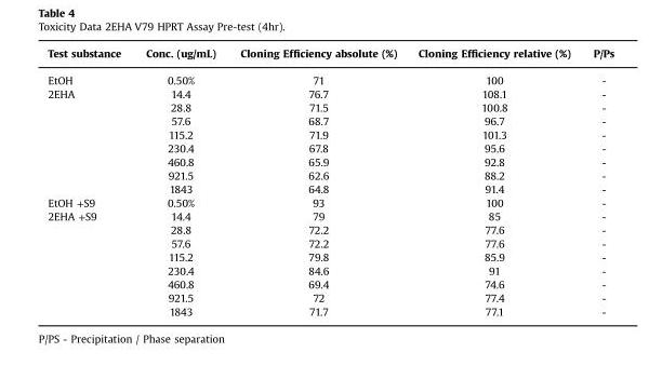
<table><thead><tr><td>Test substance</td><td>Conc. (ug/mL)</td><td>Cloning Efficiency absolute (%)</td><td>Cloning Efficiency relative (%)</td><td>P/Ps</td></tr></thead><tbody><tr><td>EtOH</td><td>0.50%</td><td>71</td><td>100</td><td>-</td></tr><tr><td rowspan="8">2EHA</td><td>14.4</td><td>76.7</td><td>108.1</td><td>-</td></tr><tr><td>28.8</td><td>71.5</td><td>100.8</td><td>-</td></tr><tr><td>57.6</td><td>68.7</td><td>96.7</td><td>-</td></tr><tr><td>115.2</td><td>71.9</td><td>101.3</td><td>-</td></tr><tr><td>230.4</td><td>67.8</td><td>95.6</td><td>-</td></tr><tr><td>460.8</td><td>65.9</td><td>92.8</td><td>-</td></tr><tr><td>921.5</td><td>62.6</td><td>88.2</td><td>-</td></tr><tr><td>1843</td><td>64.8</td><td>91.4</td><td>-</td></tr><tr><td>EtOH +S9</td><td>0.50%</td><td>93</td><td>100</td><td>-</td></tr><tr><td rowspan="8">2EHA +S9</td><td>14.4</td><td>79</td><td>85</td><td>-</td></tr><tr><td>28.8</td><td>72.2</td><td>77.6</td><td>-</td></tr><tr><td>57.6</td><td>72.2</td><td>77.6</td><td>-</td></tr><tr><td>115.2</td><td>79.8</td><td>85.9</td><td>-</td></tr><tr><td>230.4</td><td>84.6</td><td>91</td><td>-</td></tr><tr><td>460.8</td><td>69.4</td><td>74.6</td><td>-</td></tr><tr><td>921.5</td><td>72</td><td>77.4</td><td>-</td></tr><tr><td>1843</td><td>71.7</td><td>77.1</td><td>-</td></tr></tbody></table>